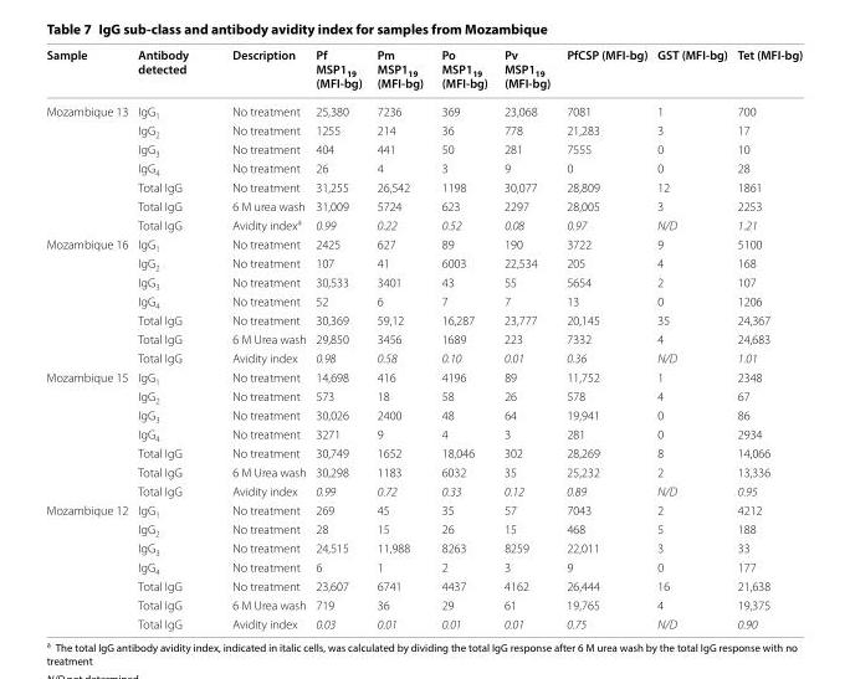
<table><thead><tr><td>Sample</td><td>Antibody detected</td><td>Description</td><td>Pf MSP1<sub>19</sub> (MFI‑bg)</td><td>Pm MSP1<sub>19</sub> (MFI‑bg)</td><td>Po MSP1<sub>19</sub> (MFI‑bg)</td><td>Pv MSP1<sub>19</sub> (MFI‑bg)</td><td>PfCSP (MFI‑bg)</td><td>GST (MFI‑bg)</td><td>Tet (MFI‑bg)</td></tr></thead><tbody><tr><td rowspan="7">Mozambique 13</td><td>IgG<sub>1</sub></td><td>No treatment</td><td>25,380</td><td>7236</td><td>369</td><td>23,068</td><td>7081</td><td>1</td><td>700</td></tr><tr><td>IgG<sub>2</sub></td><td>No treatment</td><td>1255</td><td>214</td><td>36</td><td>778</td><td>21,283</td><td>3</td><td>17</td></tr><tr><td>IgG<sub>3</sub></td><td>No treatment</td><td>404</td><td>441</td><td>50</td><td>281</td><td>7555</td><td>0</td><td>10</td></tr><tr><td>IgG<sub>4</sub></td><td>No treatment</td><td>26</td><td>4</td><td>3</td><td>9</td><td>0</td><td>0</td><td>28</td></tr><tr><td>Total IgG</td><td>No treatment</td><td>31,255</td><td>26,542</td><td>1198</td><td>30,077</td><td>28,809</td><td>12</td><td>1861</td></tr><tr><td>Total IgG</td><td>6 M urea wash</td><td>31,009</td><td>5724</td><td>623</td><td>2297</td><td>28,005</td><td>3</td><td>2253</td></tr><tr><td>Total IgG</td><td>Avidity index<sup>a</sup></td><td>0.99</td><td>0.22</td><td>0.52</td><td>0.08</td><td>0.97</td><td>N/D</td><td>1.21</td></tr><tr><td rowspan="7">Mozambique 16</td><td>IgG<sub>1</sub></td><td>No treatment</td><td>2425</td><td>627</td><td>89</td><td>190</td><td>3722</td><td>9</td><td>5100</td></tr><tr><td>IgG<sub>2</sub></td><td>No treatment</td><td>107</td><td>41</td><td>6003</td><td>22,534</td><td>205</td><td>4</td><td>168</td></tr><tr><td>IgG<sub>3</sub></td><td>No treatment</td><td>30,533</td><td>3401</td><td>43</td><td>55</td><td>5654</td><td>2</td><td>107</td></tr><tr><td>IgG<sub>4</sub></td><td>No treatment</td><td>52</td><td>6</td><td>7</td><td>7</td><td>13</td><td>0</td><td>1206</td></tr><tr><td>Total IgG</td><td>No treatment</td><td>30,369</td><td>59,12</td><td>16,287</td><td>23,777</td><td>20,145</td><td>35</td><td>24,367</td></tr><tr><td>Total IgG</td><td>6 M Urea wash</td><td>29,850</td><td>3456</td><td>1689</td><td>223</td><td>7332</td><td>4</td><td>24,683</td></tr><tr><td>Total IgG</td><td>Avidity index</td><td>0.98</td><td>0.58</td><td>0.10</td><td>0.01</td><td>0.36</td><td>N/D</td><td>1.01</td></tr><tr><td rowspan="7">Mozambique 15</td><td>IgG<sub>1</sub></td><td>No treatment</td><td>14,698</td><td>416</td><td>4196</td><td>89</td><td>11,752</td><td>1</td><td>2348</td></tr><tr><td>IgG<sub>2</sub></td><td>No treatment</td><td>573</td><td>18</td><td>58</td><td>26</td><td>578</td><td>4</td><td>67</td></tr><tr><td>IgG<sub>3</sub></td><td>No treatment</td><td>30,026</td><td>2400</td><td>48</td><td>64</td><td>19,941</td><td>0</td><td>86</td></tr><tr><td>IgG<sub>4</sub></td><td>No treatment</td><td>3271</td><td>9</td><td>4</td><td>3</td><td>281</td><td>0</td><td>2934</td></tr><tr><td>Total IgG</td><td>No treatment</td><td>30,749</td><td>1652</td><td>18,046</td><td>302</td><td>28,269</td><td>8</td><td>14,066</td></tr><tr><td>Total IgG</td><td>6 M Urea wash</td><td>30,298</td><td>1183</td><td>6032</td><td>35</td><td>25,232</td><td>2</td><td>13,336</td></tr><tr><td>Total IgG</td><td>Avidity index</td><td>0.99</td><td>0.72</td><td>0.33</td><td>0.12</td><td>0.89</td><td>N/D</td><td>0.95</td></tr><tr><td rowspan="7">Mozambique 12</td><td>IgG<sub>1</sub></td><td>No treatment</td><td>269</td><td>45</td><td>35</td><td>57</td><td>7043</td><td>2</td><td>4212</td></tr><tr><td>IgG<sub>2</sub></td><td>No treatment</td><td>28</td><td>15</td><td>26</td><td>15</td><td>468</td><td>5</td><td>188</td></tr><tr><td>IgG<sub>3</sub></td><td>No treatment</td><td>24,515</td><td>11,988</td><td>8263</td><td>8259</td><td>22,011</td><td>3</td><td>33</td></tr><tr><td>IgG<sub>4</sub></td><td>No treatment</td><td>6</td><td>1</td><td>2</td><td>3</td><td>9</td><td>0</td><td>177</td></tr><tr><td>Total IgG</td><td>No treatment</td><td>23,607</td><td>6741</td><td>4437</td><td>4162</td><td>26,444</td><td>16</td><td>21,638</td></tr><tr><td>Total IgG</td><td>6 M Urea wash</td><td>719</td><td>36</td><td>29</td><td>61</td><td>19,765</td><td>4</td><td>19,375</td></tr><tr><td>Total IgG</td><td>Avidity index</td><td>0.03</td><td>0.01</td><td>0.01</td><td>0.01</td><td>0.75</td><td>N/D</td><td>0.90</td></tr></tbody></table>